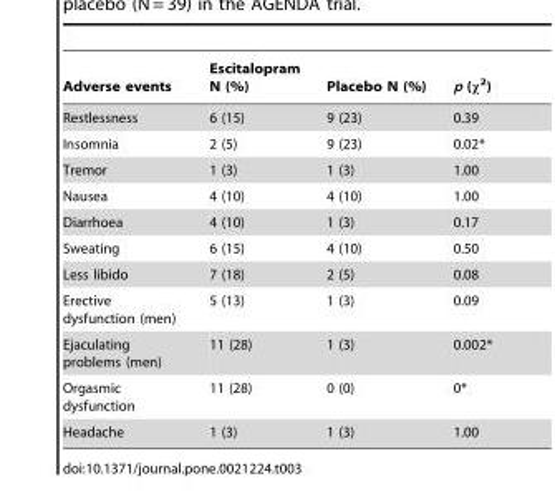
<table><thead><tr><td>Adverse events</td><td>Escitalopram N (%)</td><td>Placebo N (%)</td><td>p (χ<sup>2</sup>)</td></tr></thead><tbody><tr><td>Restlessness</td><td>6 (15)</td><td>9 (23)</td><td>0.39</td></tr><tr><td>Insomnia</td><td>2 (5)</td><td>9 (23)</td><td>0.02*</td></tr><tr><td>Tremor</td><td>1 (3)</td><td>1 (3)</td><td>1.00</td></tr><tr><td>Nausea</td><td>4 (10)</td><td>4 (10)</td><td>1.00</td></tr><tr><td>Diarrhoea</td><td>4 (10)</td><td>1 (3)</td><td>0.17</td></tr><tr><td>Sweating</td><td>6 (15)</td><td>4 (10)</td><td>0.50</td></tr><tr><td>Less libido</td><td>7 (18)</td><td>2 (5)</td><td>0.08</td></tr><tr><td>Erective dysfunction (men)</td><td>5 (13)</td><td>1 (3)</td><td>0.09</td></tr><tr><td>Ejaculating problems (men)</td><td>11 (28)</td><td>1 (3)</td><td>0.002*</td></tr><tr><td>Orgasmic dysfunction</td><td>11 (28)</td><td>0 (0)</td><td>0*</td></tr><tr><td>Headache</td><td>1 (3)</td><td>1 (3)</td><td>1.00</td></tr></tbody></table>